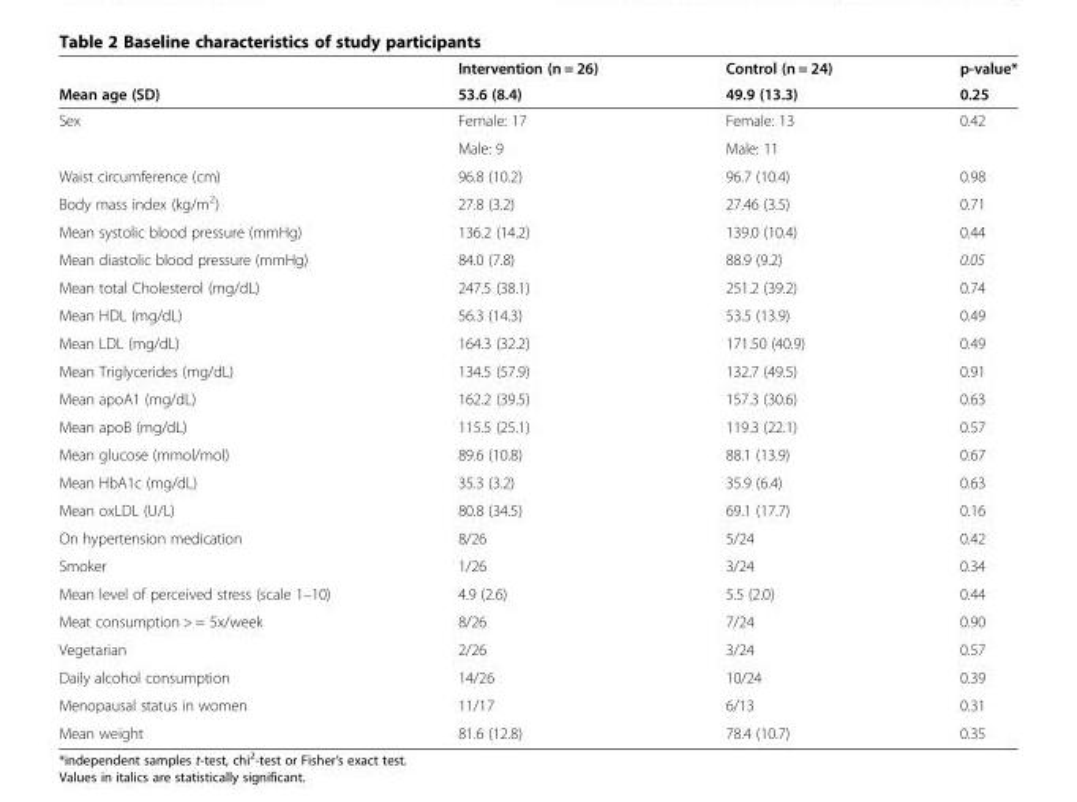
<table><thead><tr><td rowspan="2">Mean age (SD)</td><td rowspan="2">Intervention (n = 26) 53.6 (8.4)</td><td rowspan="2">Control (n = 24) 49.9 (13.3)</td><td rowspan="2">p-value* 0.25</td></tr><tr></tr></thead><tbody><tr><td rowspan="2">Sex</td><td>Female: 17</td><td>Female: 13</td><td rowspan="2">0.42</td></tr><tr><td>Male: 9</td><td>Male: 11</td></tr><tr><td>Waist circumference (cm)</td><td>96.8 (10.2)</td><td>96.7 (10.4)</td><td>0.98</td></tr><tr><td>Body mass index (kg/m<sup>2</sup>)</td><td>27.8 (3.2)</td><td>27.46 (3.5)</td><td>0.71</td></tr><tr><td>Mean systolic blood pressure (mmHg)</td><td>136.2 (14.2)</td><td>139.0 (10.4)</td><td>0.44</td></tr><tr><td>Mean diastolic blood pressure (mmHg)</td><td>84.0 (7.8)</td><td>88.9 (9.2)</td><td>0.05</td></tr><tr><td>Mean total Cholesterol (mg/dL)</td><td>247.5 (38.1)</td><td>251.2 (39.2)</td><td>0.74</td></tr><tr><td>Mean HDL (mg/dL)</td><td>56.3 (14.3)</td><td>53.5 (13.9)</td><td>0.49</td></tr><tr><td>Mean LDL (mg/dL)</td><td>164.3 (32.2)</td><td>171.50 (40.9)</td><td>0.49</td></tr><tr><td>Mean Triglycerides (mg/dL)</td><td>134.5 (57.9)</td><td>132.7 (49.5)</td><td>0.91</td></tr><tr><td>Mean apoA1 (mg/dL)</td><td>162.2 (39.5)</td><td>157.3 (30.6)</td><td>0.63</td></tr><tr><td>Mean apoB (mg/dL)</td><td>115.5 (25.1)</td><td>119.3 (22.1)</td><td>0.57</td></tr><tr><td>Mean glucose (mmol/mol)</td><td>89.6 (10.8)</td><td>88.1 (13.9)</td><td>0.67</td></tr><tr><td>Mean HbA1c (mg/dL)</td><td>35.3 (3.2)</td><td>35.9 (6.4)</td><td>0.63</td></tr><tr><td>Mean oxLDL (U/L)</td><td>80.8 (34.5)</td><td>69.1 (17.7)</td><td>0.16</td></tr><tr><td>On hypertension medication</td><td>8/26</td><td>5/24</td><td>0.42</td></tr><tr><td>Smoker</td><td>1/26</td><td>3/24</td><td>0.34</td></tr><tr><td>Mean level of perceived stress (scale 1–10)</td><td>4.9 (2.6)</td><td>5.5 (2.0)</td><td>0.44</td></tr><tr><td>Meat consumption &gt; = 5x/week</td><td>8/26</td><td>7/24</td><td>0.90</td></tr><tr><td>Vegetarian</td><td>2/26</td><td>3/24</td><td>0.57</td></tr><tr><td>Daily alcohol consumption</td><td>14/26</td><td>10/24</td><td>0.39</td></tr><tr><td>Menopausal status in women</td><td>11/17</td><td>6/13</td><td>0.31</td></tr><tr><td>Mean weight</td><td>81.6 (12.8)</td><td>78.4 (10.7)</td><td>0.35</td></tr></tbody></table>